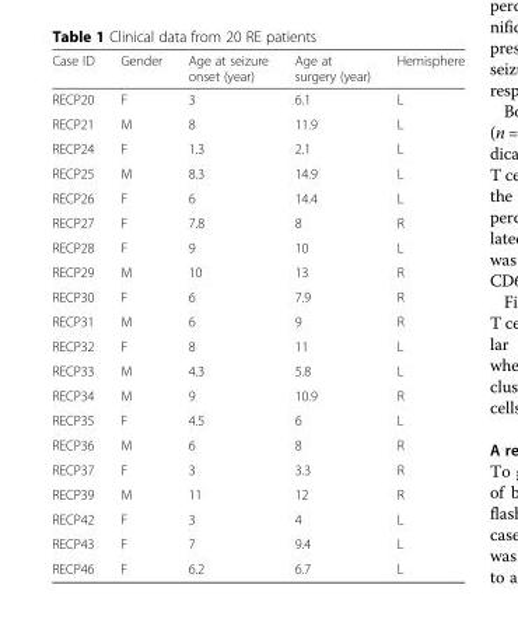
<table><thead><tr><td>Case ID</td><td>Gender</td><td>Age at seizure onset (year)</td><td>Age at surgery (year)</td><td>Hemisphere</td></tr></thead><tbody><tr><td>RECP20</td><td>F</td><td>3</td><td>6.1</td><td>L</td></tr><tr><td>RECP21</td><td>M</td><td>8</td><td>11.9</td><td>L</td></tr><tr><td>RECP24</td><td>F</td><td>1.3</td><td>2.1</td><td>L</td></tr><tr><td>RECP25</td><td>M</td><td>8.3</td><td>14.9</td><td>L</td></tr><tr><td>RECP26</td><td>F</td><td>6</td><td>14.4</td><td>L</td></tr><tr><td>RECP27</td><td>F</td><td>7.8</td><td>8</td><td>R</td></tr><tr><td>RECP28</td><td>F</td><td>9</td><td>10</td><td>L</td></tr><tr><td>RECP29</td><td>M</td><td>10</td><td>13</td><td>R</td></tr><tr><td>RECP30</td><td>F</td><td>6</td><td>7.9</td><td>R</td></tr><tr><td>RECP31</td><td>M</td><td>6</td><td>9</td><td>R</td></tr><tr><td>RECP32</td><td>F</td><td>8</td><td>11</td><td>L</td></tr><tr><td>RECP33</td><td>M</td><td>4.3</td><td>5.8</td><td>L</td></tr><tr><td>RECP34</td><td>M</td><td>9</td><td>10.9</td><td>R</td></tr><tr><td>RECP35</td><td>F</td><td>4.5</td><td>6</td><td>L</td></tr><tr><td>RECP36</td><td>M</td><td>6</td><td>8</td><td>R</td></tr><tr><td>RECP37</td><td>F</td><td>3</td><td>3.3</td><td>R</td></tr><tr><td>RECP39</td><td>M</td><td>11</td><td>12</td><td>R</td></tr><tr><td>RECP42</td><td>F</td><td>3</td><td>4</td><td>L</td></tr><tr><td>RECP43</td><td>F</td><td>7</td><td>9.4</td><td>L</td></tr><tr><td>RECP46</td><td>F</td><td>6.2</td><td>6.7</td><td>L</td></tr></tbody></table>